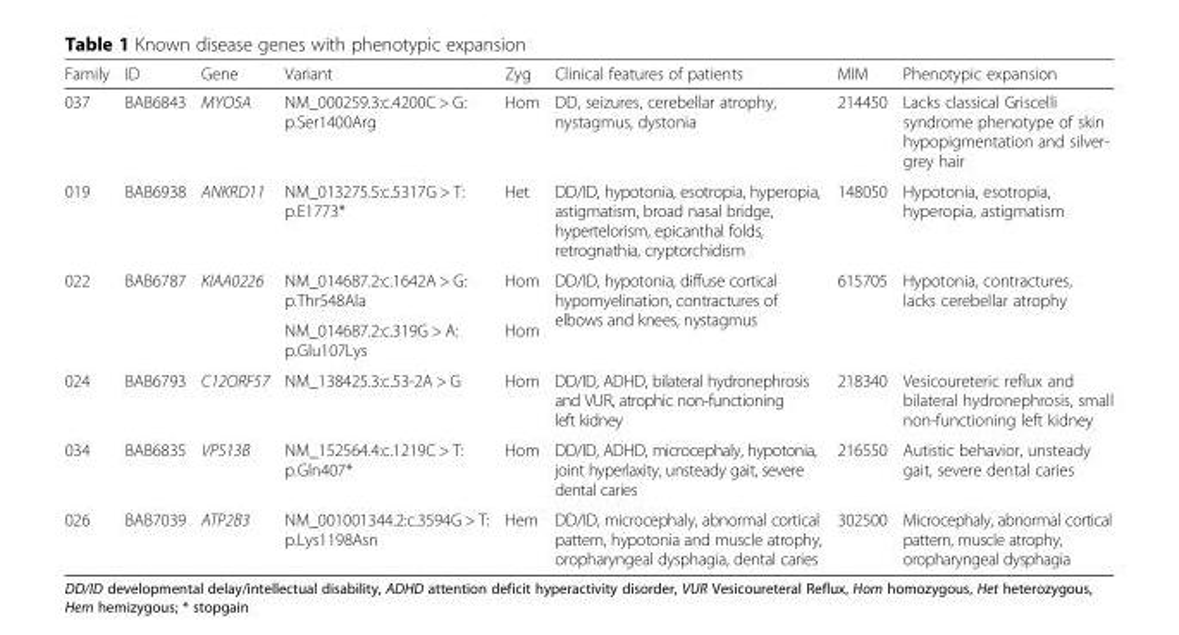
<table><thead><tr><td>Family</td><td>ID</td><td>Gene</td><td>Variant</td><td>Zyg</td><td>Clinical features of patients</td><td>MIM</td><td>Phenotypic expansion</td></tr></thead><tbody><tr><td>037</td><td>BAB6843</td><td>MYO5A</td><td>NM_000259.3:c.4200C &gt; G: p.Ser1400Arg</td><td>Hom</td><td>DD, seizures, cerebellar atrophy, nystagmus, dystonia</td><td>214450</td><td>Lacks classical Griscelli syndrome phenotype of skin hypopigmentation and silver- grey hair</td></tr><tr><td>019</td><td>BAB6938</td><td>ANKRD11</td><td>NM_013275.5:c.5317G &gt; T: p.E1773*</td><td>Het</td><td>DD/ID, hypotonia, esotropia, hyperopia, astigmatism, broad nasal bridge, hypertelorism, epicanthal folds, retrognathia, cryptorchidism</td><td>148050</td><td>Hypotonia, esotropia, hyperopia, astigmatism</td></tr><tr><td rowspan="2">022</td><td rowspan="2">BAB6787</td><td rowspan="2">KIAA0226</td><td>NM_014687.2:c.1642A &gt; G: p.Thr548Ala</td><td>Hom</td><td rowspan="2">DD/ID, hypotonia, diffuse cortical hypomyelination, contractures of elbows and knees, nystagmus</td><td rowspan="2">615705</td><td rowspan="2">Hypotonia, contractures, lacks cerebellar atrophy</td></tr><tr><td>NM_014687.2:c.319G &gt; A: p.Glu107Lys</td><td>Hom</td></tr><tr><td>024</td><td>BAB6793</td><td>C12ORF57</td><td>NM_138425.3:c.53-2A &gt; G</td><td>Hom</td><td>DD/ID, ADHD, bilateral hydronephrosis and VUR, atrophic non-functioning left kidney</td><td>218340</td><td>Vesicoureteric reflux and bilateral hydronephrosis, small non-functioning left kidney</td></tr><tr><td>034</td><td>BAB6835</td><td>VPS13B</td><td>NM_152564.4:c.1219C &gt; T: p.Gln407*</td><td>Hom</td><td>DD/ID, ADHD, microcephaly, hypotonia, joint hyperlaxity, unsteady gait, severe dental caries</td><td>216550</td><td>Autistic behavior, unsteady gait, severe dental caries</td></tr><tr><td>026</td><td>BAB7039</td><td>ATP2B3</td><td>NM_001001344.2:c.3594G &gt; T: p.Lys1198Asn</td><td>Hem</td><td>DD/ID, microcephaly, abnormal cortical pattern, hypotonia and muscle atrophy, oropharyngeal dysphagia, dental caries</td><td>302500</td><td>Microcephaly, abnormal cortical pattern, muscle atrophy, oropharyngeal dysphagia</td></tr></tbody></table>